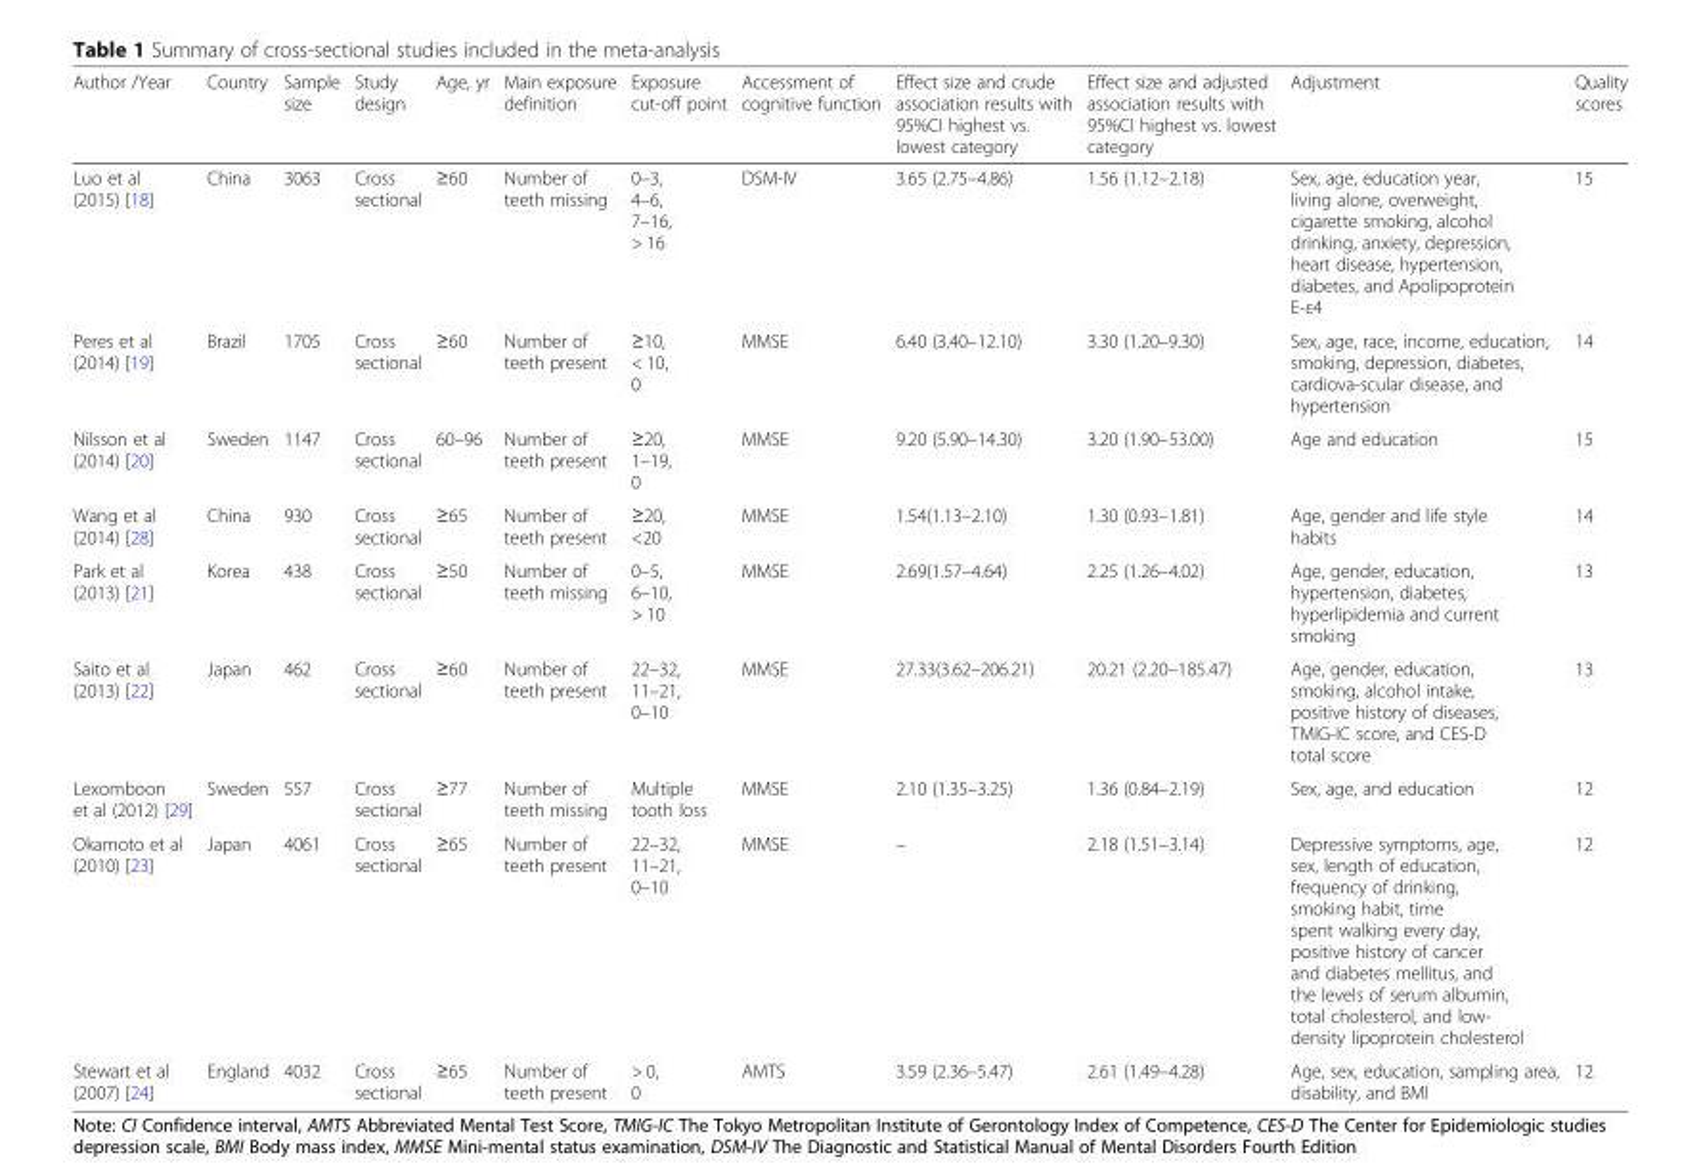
<table><thead><tr><td>Author /Year</td><td>Country</td><td>Sample size</td><td>Study design</td><td>Age, yr</td><td>Main exposure definition</td><td>Exposure cut-off point</td><td>Accessment of cognitive function</td><td>Effect size and crude association results with 95%CI highest vs. lowest category</td><td>Effect size and adjusted association results with 95%CI highest vs. lowest category</td><td>Adjustment</td><td>Quality scores</td></tr></thead><tbody><tr><td>Luo et al (2015) [18]</td><td>China</td><td>3063</td><td>Cross sectional</td><td>≥60</td><td>Number of teeth missing</td><td>0–3, 4–6, 7–16, &gt; 16</td><td>DSM-IV</td><td>3.65 (2.75–4.86)</td><td>1.56 (1.12–2.18)</td><td>Sex, age, education year, living alone, overweight, cigarette smoking, alcohol drinking, anxiety, depression, heart disease, hypertension, diabetes, and Apolipoprotein E-ε4</td><td>15</td></tr><tr><td>Peres et al (2014) [19]</td><td>Brazil</td><td>1705</td><td>Cross sectional</td><td>≥60</td><td>Number of teeth present</td><td>≥10, &lt; 10, 0</td><td>MMSE</td><td>6.40 (3.40–12.10)</td><td>3.30 (1.20–9.30)</td><td>Sex, age, race, income, education, smoking, depression, diabetes, cardiova-scular disease, and hypertension</td><td>14</td></tr><tr><td>Nilsson et al (2014) [20]</td><td>Sweden</td><td>1147</td><td>Cross sectional</td><td>60–96</td><td>Number of teeth present</td><td>≥20, 1–19, 0</td><td>MMSE</td><td>9.20 (5.90–14.30)</td><td>3.20 (1.90–53.00)</td><td>Age and education</td><td>15</td></tr><tr><td>Wang et al (2014) [28]</td><td>China</td><td>930</td><td>Cross sectional</td><td>≥65</td><td>Number of teeth present</td><td>≥20, &lt;20</td><td>MMSE</td><td>1.54(1.13–2.10)</td><td>1.30 (0.93–1.81)</td><td>Age, gender and life style habits</td><td>14</td></tr><tr><td>Park et al (2013) [21]</td><td>Korea</td><td>438</td><td>Cross sectional</td><td>≥50</td><td>Number of teeth missing</td><td>0–5, 6–10, &gt; 10</td><td>MMSE</td><td>2.69(1.57–4.64)</td><td>2.25 (1.26–4.02)</td><td>Age, gender, education, hypertension, diabetes, hyperlipidemia and current smoking</td><td>13</td></tr><tr><td>Saito et al (2013) [22]</td><td>Japan</td><td>462</td><td>Cross sectional</td><td>≥60</td><td>Number of teeth present</td><td>22–32, 11–21, 0–10</td><td>MMSE</td><td>27.33(3.62–206.21)</td><td>20.21 (2.20–185.47)</td><td>Age, gender, education, smoking, alcohol intake, positive history of diseases, TMIG-IC score, and CES-D total score</td><td>13</td></tr><tr><td>Lexomboon et al (2012) [29]</td><td>Sweden</td><td>557</td><td>Cross sectional</td><td>≥77</td><td>Number of teeth missing</td><td>Multiple tooth loss</td><td>MMSE</td><td>2.10 (1.35–3.25)</td><td>1.36 (0.84–2.19)</td><td>Sex, age, and education</td><td>12</td></tr><tr><td>Okamoto et al (2010) [23]</td><td>Japan</td><td>4061</td><td>Cross sectional</td><td>≥65</td><td>Number of teeth present</td><td>22–32, 11–21, 0–10</td><td>MMSE</td><td>–</td><td>2.18 (1.51–3.14)</td><td>Depressive symptoms, age, sex, length of education, frequency of drinking, smoking habit, time spent walking every day, positive history of cancer and diabetes mellitus, and the levels of serum albumin, total cholesterol, and low- density lipoprotein cholesterol</td><td>12</td></tr><tr><td>Stewart et al (2007) [24]</td><td>England</td><td>4032</td><td>Cross sectional</td><td>≥65</td><td>Number of teeth present</td><td>&gt; 0, 0</td><td>AMTS</td><td>3.59 (2.36–5.47)</td><td>2.61 (1.49–4.28)</td><td>Age, sex, education, sampling area, disability, and BMI</td><td>12</td></tr></tbody></table>